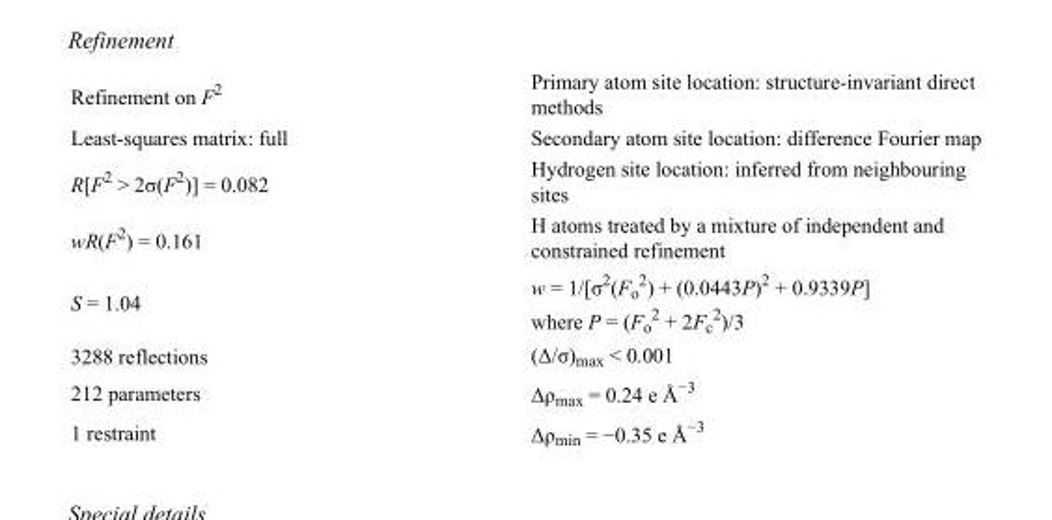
<table><tbody><tr><td>Refinement on F<sup>2</sup></td><td>Primary atom site location: structure-invariant direct methods</td></tr><tr><td>Least-squares matrix: full</td><td>Secondary atom site location: difference Fourier map</td></tr><tr><td>R[F<sup>2</sup> &gt; 2σ(F<sup>2</sup>)] = 0.082</td><td>Hydrogen site location: inferred from neighbouring sites</td></tr><tr><td>wR(F<sup>2</sup>) = 0.161</td><td>H atoms treated by a mixture of independent and constrained refinement</td></tr><tr><td>S = 1.04</td><td>w = 1/[σ<sup>2</sup>(F<sub>o</sub> <sup>2</sup>) + (0.0443P)<sup>2</sup> + 0.9339P] where P = (F<sub>o</sub> <sup>2</sup> + 2F<sub>c</sub> <sup>2</sup>)/3</td></tr><tr><td>3288 reflections</td><td>(Δ/σ)<sub>max</sub> &lt; 0.001</td></tr><tr><td>212 parameters</td><td>Δρ<sub>max</sub> = 0.24 e Å<sup>−3</sup></td></tr><tr><td>1 restraint</td><td>Δρ<sub>min</sub> = −0.35 e Å<sup>−3</sup></td></tr></tbody></table>